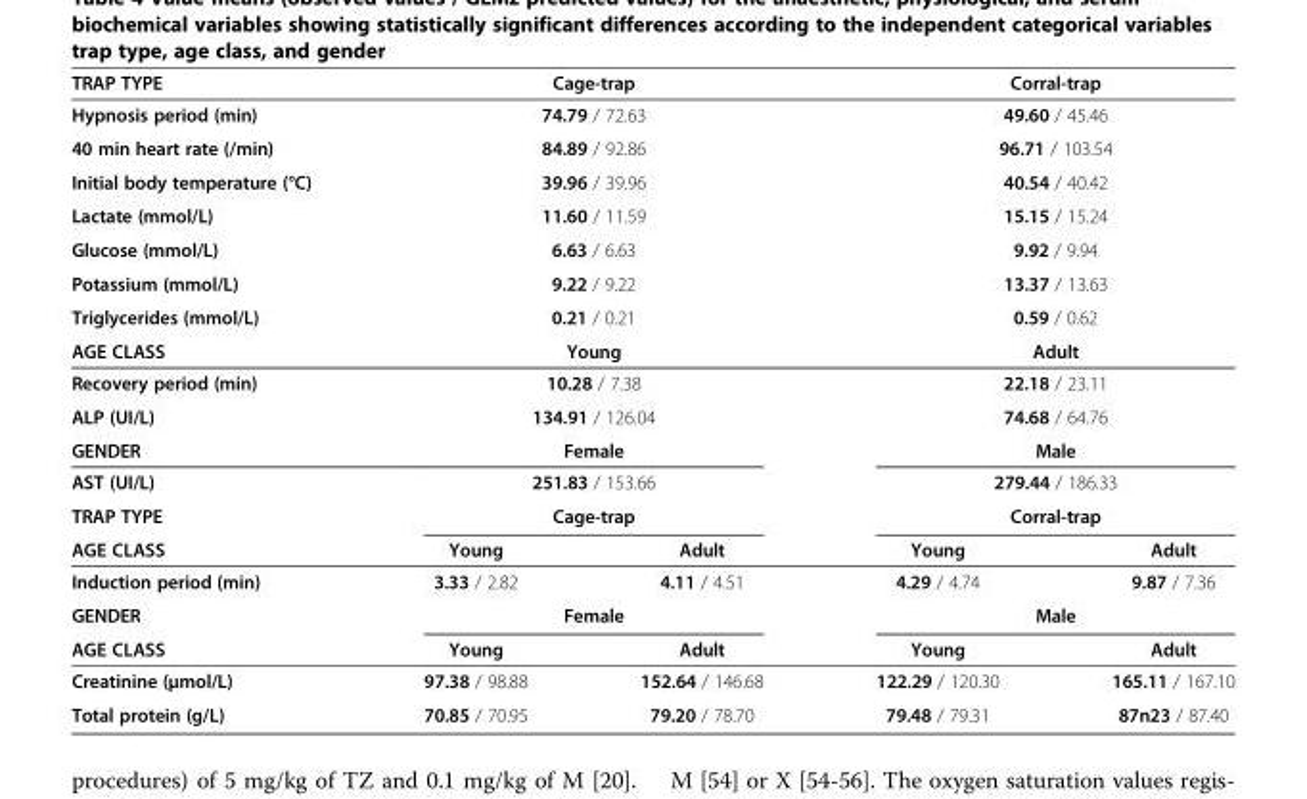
<table><thead><tr><td>TRAP TYPE</td><td colspan="2">Cage-trap</td><td colspan="2">Corral-trap</td></tr></thead><tbody><tr><td>Hypnosis period (min)</td><td colspan="2">74.79 / 72.63</td><td colspan="2">49.60 / 45.46</td></tr><tr><td>40 min heart rate (/min)</td><td colspan="2">84.89 / 92.86</td><td colspan="2">96.71 / 103.54</td></tr><tr><td>Initial body temperature (°C)</td><td colspan="2">39.96 / 39.96</td><td colspan="2">40.54 / 40.42</td></tr><tr><td>Lactate (mmol/L)</td><td colspan="2">11.60 / 11.59</td><td colspan="2">15.15 / 15.24</td></tr><tr><td>Glucose (mmol/L)</td><td colspan="2">6.63 / 6.63</td><td colspan="2">9.92 / 9.94</td></tr><tr><td>Potassium (mmol/L)</td><td colspan="2">9.22 / 9.22</td><td colspan="2">13.37 / 13.63</td></tr><tr><td>Triglycerides (mmol/L)</td><td colspan="2">0.21 / 0.21</td><td colspan="2">0.59 / 0.62</td></tr><tr><td>AGE CLASS</td><td colspan="2">Young</td><td colspan="2">Adult</td></tr><tr><td>Recovery period (min)</td><td colspan="2">10.28 / 7.38</td><td colspan="2">22.18 / 23.11</td></tr><tr><td>ALP (UI/L)</td><td colspan="2">134.91 / 126.04</td><td colspan="2">74.68 / 64.76</td></tr><tr><td>GENDER</td><td colspan="2">Female</td><td colspan="2">Male</td></tr><tr><td>AST (UI/L)</td><td colspan="2">251.83 / 153.66</td><td colspan="2">279.44 / 186.33</td></tr><tr><td>TRAP TYPE</td><td colspan="2">Cage-trap</td><td colspan="2">Corral-trap</td></tr><tr><td>AGE CLASS</td><td>Young</td><td>Adult</td><td>Young</td><td>Adult</td></tr><tr><td>Induction period (min)</td><td>3.33 / 2.82</td><td>4.11 / 4.51</td><td>4.29 / 4.74</td><td>9.87 / 7.36</td></tr><tr><td>GENDER</td><td colspan="2">Female</td><td colspan="2">Male</td></tr><tr><td>AGE CLASS</td><td>Young</td><td>Adult</td><td>Young</td><td>Adult</td></tr><tr><td>Creatinine (μmol/L)</td><td>97.38 / 98.88</td><td>152.64 / 146.68</td><td>122.29 / 120.30</td><td>165.11 / 167.10</td></tr><tr><td>Total protein (g/L)</td><td>70.85 / 70.95</td><td>79.20 / 78.70</td><td>79.48 / 79.31</td><td>87n23 / 87.40</td></tr></tbody></table>